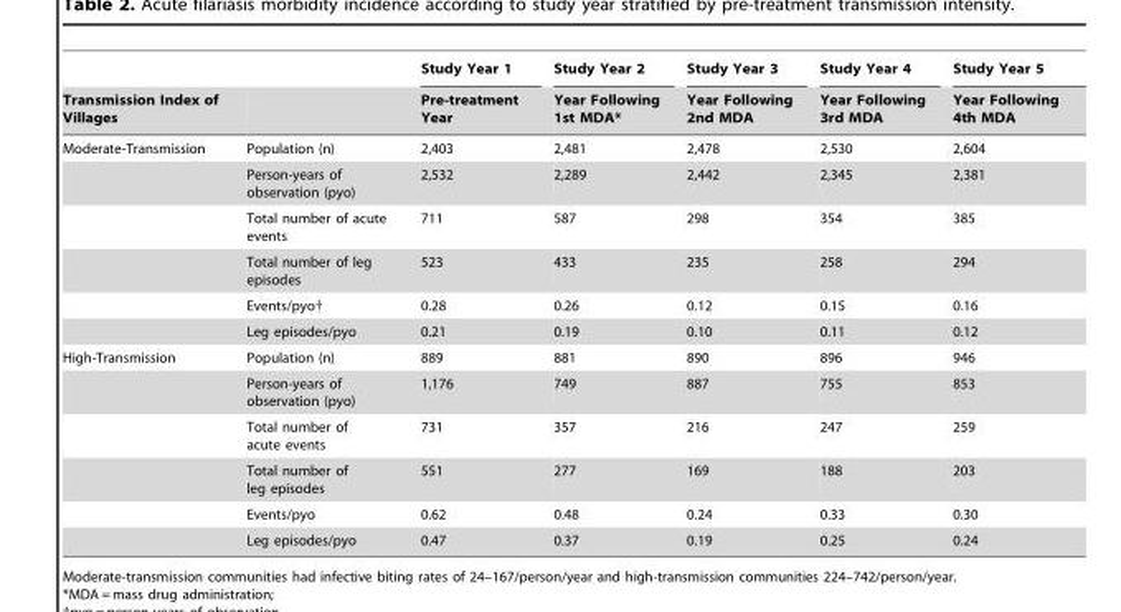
<table><thead><tr><td rowspan="2">Transmission Index of Villages</td><td rowspan="2"></td><td rowspan="2">Study Year 1 Pre-treatment Year</td><td rowspan="2">Study Year 2 Year Following 1st MDA*</td><td rowspan="2">Study Year 3 Year Following 2nd MDA</td><td rowspan="2">Study Year 4 Year Following 3rd MDA</td><td rowspan="2">Study Year 5 Year Following 4th MDA</td></tr><tr></tr></thead><tbody><tr><td rowspan="6">Moderate-Transmission</td><td>Population (n)</td><td>2,403</td><td>2,481</td><td>2,478</td><td>2,530</td><td>2,604</td></tr><tr><td>Person-years of observation (pyo)</td><td>2,532</td><td>2,289</td><td>2,442</td><td>2,345</td><td>2,381</td></tr><tr><td>Total number of acute events</td><td>711</td><td>587</td><td>298</td><td>354</td><td>385</td></tr><tr><td>Total number of leg episodes</td><td>523</td><td>433</td><td>235</td><td>258</td><td>294</td></tr><tr><td>Events/pyo†</td><td>0.28</td><td>0.26</td><td>0.12</td><td>0.15</td><td>0.16</td></tr><tr><td>Leg episodes/pyo</td><td>0.21</td><td>0.19</td><td>0.10</td><td>0.11</td><td>0.12</td></tr><tr><td rowspan="6">High-Transmission</td><td>Population (n)</td><td>889</td><td>881</td><td>890</td><td>896</td><td>946</td></tr><tr><td>Person-years of observation (pyo)</td><td>1,176</td><td>749</td><td>887</td><td>755</td><td>853</td></tr><tr><td>Total number of acute events</td><td>731</td><td>357</td><td>216</td><td>247</td><td>259</td></tr><tr><td>Total number of leg episodes</td><td>551</td><td>277</td><td>169</td><td>188</td><td>203</td></tr><tr><td>Events/pyo</td><td>0.62</td><td>0.48</td><td>0.24</td><td>0.33</td><td>0.30</td></tr><tr><td>Leg episodes/pyo</td><td>0.47</td><td>0.37</td><td>0.19</td><td>0.25</td><td>0.24</td></tr></tbody></table>